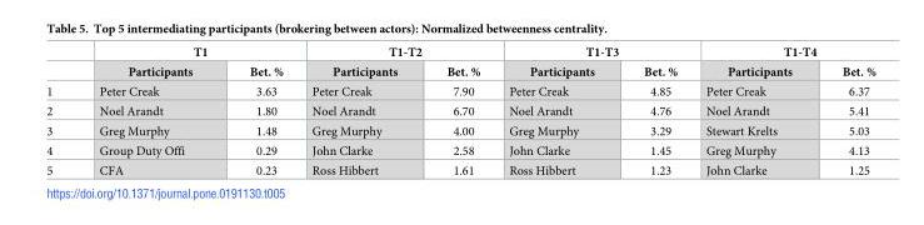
<table><thead><tr><td rowspan="2"></td><td colspan="2">T1</td><td colspan="2">T1-T2</td><td colspan="2">T1-T3</td><td colspan="2">T1-T4</td></tr><tr><td>Participants</td><td>Bet. %</td><td>Participants</td><td>Bet. %</td><td>Participants</td><td>Bet. %</td><td>Participants</td><td>Bet. %</td></tr></thead><tbody><tr><td>1</td><td>Peter Creak</td><td>3.63</td><td>Peter Creak</td><td>7.90</td><td>Peter Creak</td><td>4.85</td><td>Peter Creak</td><td>6.37</td></tr><tr><td>2</td><td>Noel Arandt</td><td>1.80</td><td>Noel Arandt</td><td>6.70</td><td>Noel Arandt</td><td>4.76</td><td>Noel Arandt</td><td>5.41</td></tr><tr><td>3</td><td>Greg Murphy</td><td>1.48</td><td>Greg Murphy</td><td>4.00</td><td>Greg Murphy</td><td>3.29</td><td>Stewart Krelts</td><td>5.03</td></tr><tr><td>4</td><td>Group Duty Offi</td><td>0.29</td><td>John Clarke</td><td>2.58</td><td>John Clarke</td><td>1.45</td><td>Greg Murphy</td><td>4.13</td></tr><tr><td>5</td><td>CFA</td><td>0.23</td><td>Ross Hibbert</td><td>1.61</td><td>Ross Hibbert</td><td>1.23</td><td>John Clarke</td><td>1.25</td></tr></tbody></table>